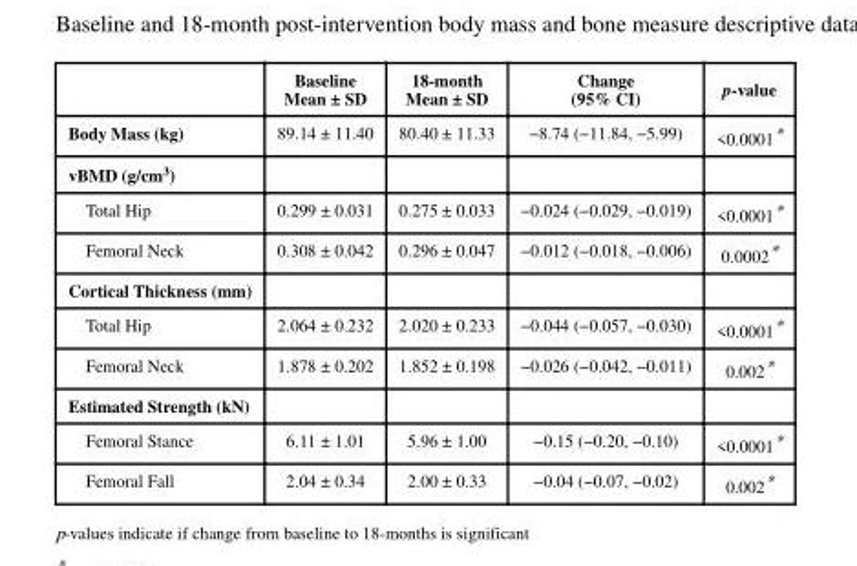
<table><thead><tr><td></td><td>Baseline Mean ± SD</td><td>18-month Mean ± SD</td><td>Change (95% CI)</td><td>p-value</td></tr></thead><tbody><tr><td>Body Mass (kg)</td><td>89.14 ± 11.40</td><td>80.40 ± 11.33</td><td>−8.74 (−11.84, −5.99)</td><td>&lt;0.0001*</td></tr><tr><td colspan="5">vBMD (g/cm<sup>3</sup>)</td></tr><tr><td>Total Hip</td><td>0.299 ± 0.031</td><td>0.275 ± 0.033</td><td>−0.024 (−0.029, −0.019)</td><td>&lt;0.0001*</td></tr><tr><td>Femoral Neck</td><td>0.308 ± 0.042</td><td>0.296 ± 0.047</td><td>−0.012 (−0.018, −0.006)</td><td>0.0002*</td></tr><tr><td colspan="5">Cortical Thickness (mm)</td></tr><tr><td>Total Hip</td><td>2.064 ± 0.232</td><td>2.020 ± 0.233</td><td>−0.044 (−0.057, −0.030)</td><td>&lt;0.0001*</td></tr><tr><td>Femoral Neck</td><td>1.878 ± 0.202</td><td>1.852 ± 0.198</td><td>−0.026 (−0.042, −0.011)</td><td>0.002*</td></tr><tr><td colspan="5">Estimated Strength (kN)</td></tr><tr><td>Femoral Stance</td><td>6.11 ± 1.01</td><td>5.96 ± 1.00</td><td>−0.15 (−0.20, −0.10)</td><td>&lt;0.0001*</td></tr><tr><td>Femoral Fall</td><td>2.04 ± 0.34</td><td>2.00 ± 0.33</td><td>−0.04 (−0.07, −0.02)</td><td>0.002*</td></tr></tbody></table>